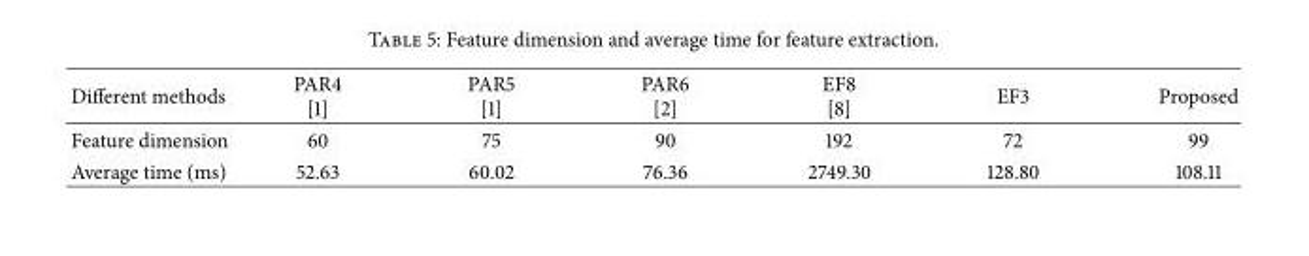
<table><thead><tr><td>Different methods</td><td>PAR4 [1]</td><td>PAR5 [1]</td><td>PAR6 [2]</td><td>EF8 [8]</td><td>EF3</td><td>Proposed</td></tr></thead><tbody><tr><td>Feature dimension</td><td>60</td><td>75</td><td>90</td><td>192</td><td>72</td><td>99</td></tr><tr><td>Average time (ms)</td><td>52.63</td><td>60.02</td><td>76.36</td><td>2749.30</td><td>128.80</td><td>108.11</td></tr></tbody></table>